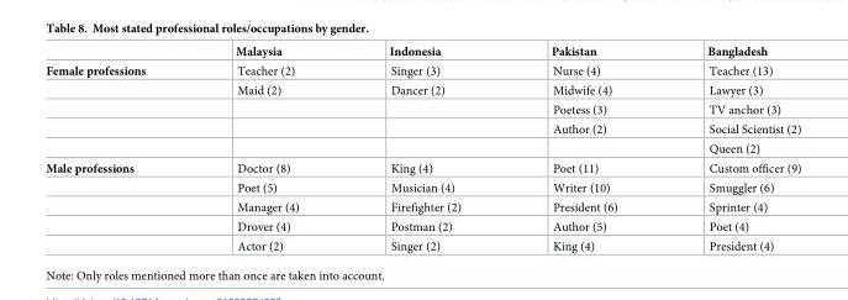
<table><thead><tr><td></td><td>Malaysia</td><td>Indonesia</td><td>Pakistan</td><td>Bangladesh</td></tr></thead><tbody><tr><td rowspan="5">Female professions</td><td>Teacher (2)</td><td>Singer (3)</td><td>Nurse (4)</td><td>Teacher (13)</td></tr><tr><td>Maid (2)</td><td>Dancer (2)</td><td>Midwife (4)</td><td>Lawyer (3)</td></tr><tr><td></td><td></td><td>Poetess (3)</td><td>TV anchor (3)</td></tr><tr><td></td><td></td><td>Author (2)</td><td>Social Scientist (2)</td></tr><tr><td></td><td></td><td></td><td>Queen (2)</td></tr><tr><td rowspan="5">Male professions</td><td>Doctor (8)</td><td>King (4)</td><td>Poet (11)</td><td>Custom officer (9)</td></tr><tr><td>Poet (5)</td><td>Musician (4)</td><td>Writer (10)</td><td>Smuggler (6)</td></tr><tr><td>Manager (4)</td><td>Firefighter (2)</td><td>President (6)</td><td>Sprinter (4)</td></tr><tr><td>Drover (4)</td><td>Postman (2)</td><td>Author (5)</td><td>Poet (4)</td></tr><tr><td>Actor (2)</td><td>Singer (2)</td><td>King (4)</td><td>President (4)</td></tr></tbody></table>